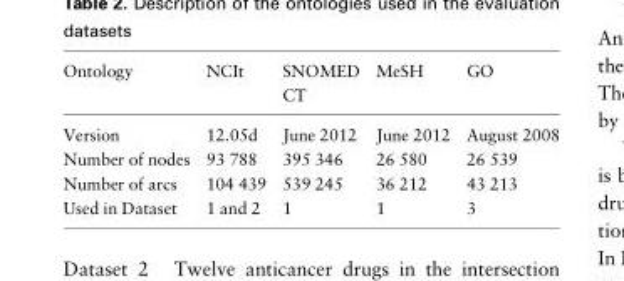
<table><thead><tr><td>Ontology</td><td>NCIt</td><td>SNOMED CT</td><td>MeSH</td><td>GO</td></tr></thead><tbody><tr><td>Version</td><td>12.05d</td><td>June 2012</td><td>June 2012</td><td>August 2008</td></tr><tr><td>Number of nodes</td><td>93 788</td><td>395 346</td><td>26 580</td><td>26 539</td></tr><tr><td>Number of arcs</td><td>104 439</td><td>539 245</td><td>36 212</td><td>43 213</td></tr><tr><td>Used in Dataset</td><td>1 and 2</td><td>1</td><td>1</td><td>3</td></tr></tbody></table>